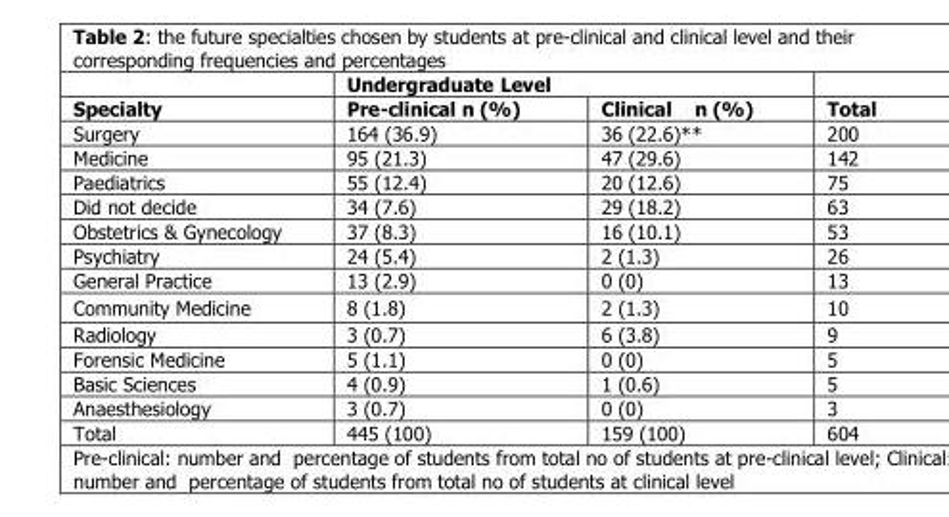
<table><thead><tr><td rowspan="2">Specialty</td><td colspan="2">Undergraduate Level</td><td rowspan="2">Total</td></tr><tr><td>Pre-clinical n (%)</td><td>Clinical n (%)</td></tr></thead><tbody><tr><td>Surgery</td><td>164 (36.9)</td><td>36 (22.6)**</td><td>200</td></tr><tr><td>Medicine</td><td>95 (21.3)</td><td>47 (29.6)</td><td>142</td></tr><tr><td>Paediatrics</td><td>55 (12.4)</td><td>20 (12.6)</td><td>75</td></tr><tr><td>Did not decide</td><td>34 (7.6)</td><td>29 (18.2)</td><td>63</td></tr><tr><td>Obstetrics &amp; Gynecology</td><td>37 (8.3)</td><td>16 (10.1)</td><td>53</td></tr><tr><td>Psychiatry</td><td>24 (5.4)</td><td>2 (1.3)</td><td>26</td></tr><tr><td>General Practice</td><td>13 (2.9)</td><td>0 (0)</td><td>13</td></tr><tr><td>Community Medicine</td><td>8 (1.8)</td><td>2 (1.3)</td><td>10</td></tr><tr><td>Radiology</td><td>3 (0.7)</td><td>6 (3.8)</td><td>9</td></tr><tr><td>Forensic Medicine</td><td>5 (1.1)</td><td>0 (0)</td><td>5</td></tr><tr><td>Basic Sciences</td><td>4 (0.9)</td><td>1 (0.6)</td><td>5</td></tr><tr><td>Anaesthesiology</td><td>3 (0.7)</td><td>0 (0)</td><td>3</td></tr><tr><td>Total</td><td>445 (100)</td><td>159 (100)</td><td>604</td></tr></tbody></table>